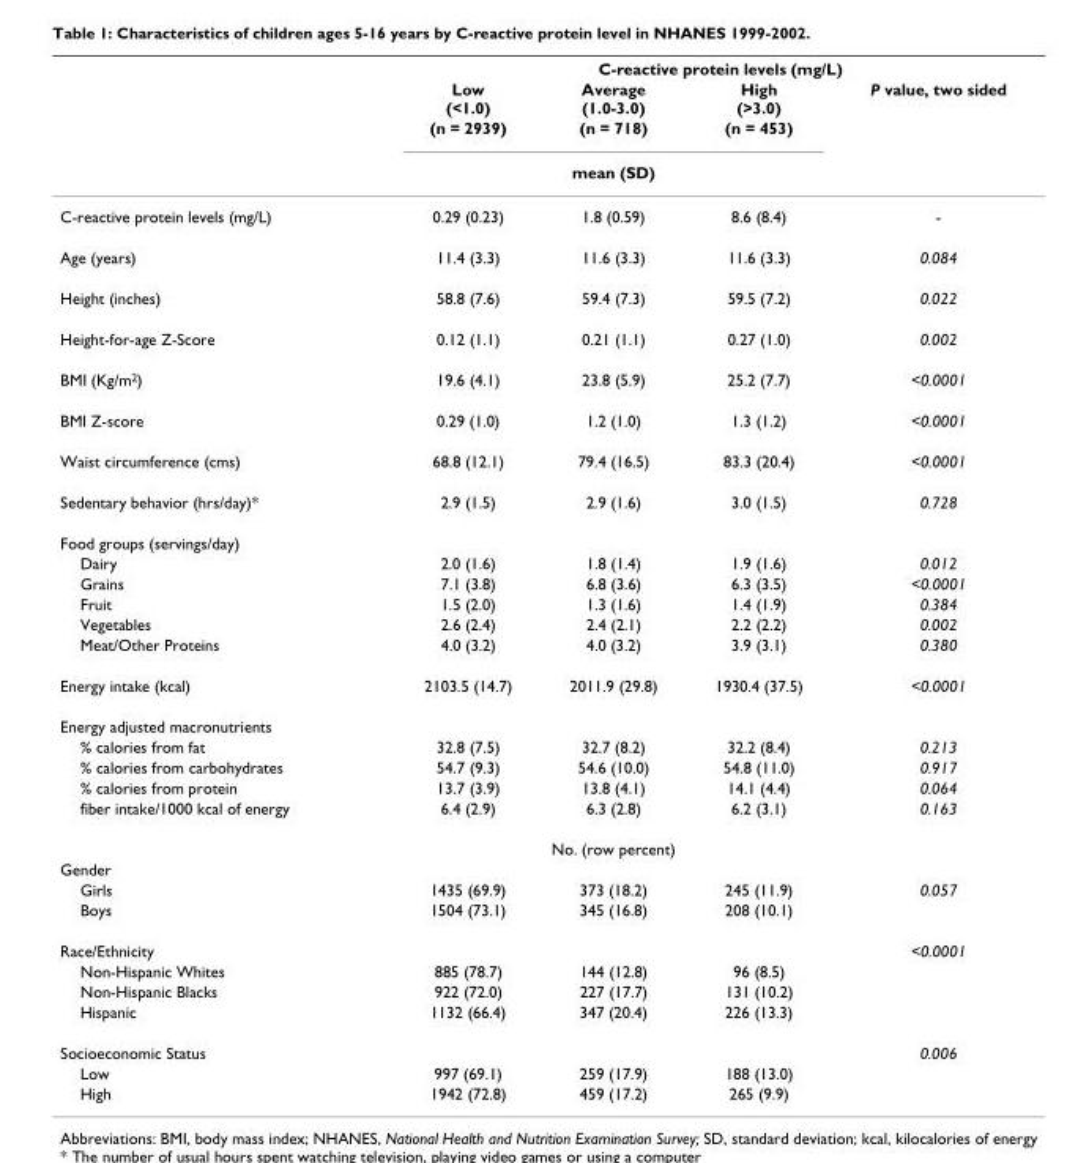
<table><thead><tr><td rowspan="4"></td><td colspan="4">C-reactive protein levels (mg/L)</td></tr><tr><td rowspan="2">Low (&lt;1.0) (n = 2939)</td><td rowspan="2">Average (1.0-3.0) (n = 718)</td><td rowspan="2">High (&gt;3.0) (n = 453)</td><td rowspan="3">P value, two sided</td></tr><tr></tr><tr><td colspan="3">mean (SD)</td></tr></thead><tbody><tr><td>C-reactive protein levels (mg/L)</td><td>0.29 (0.23)</td><td>1.8 (0.59)</td><td>8.6 (8.4)</td><td>-</td></tr><tr><td>Age (years)</td><td>11.4 (3.3)</td><td>11.6 (3.3)</td><td>11.6 (3.3)</td><td>0.084</td></tr><tr><td>Height (inches)</td><td>58.8 (7.6)</td><td>59.4 (7.3)</td><td>59.5 (7.2)</td><td>0.022</td></tr><tr><td>Height-for-age Z-Score</td><td>0.12 (1.1)</td><td>0.21 (1.1)</td><td>0.27 (1.0)</td><td>0.002</td></tr><tr><td>BMI (Kg/m<sup>2</sup>)</td><td>19.6 (4.1)</td><td>23.8 (5.9)</td><td>25.2 (7.7)</td><td>&lt;0.0001</td></tr><tr><td>BMI Z-score</td><td>0.29 (1.0)</td><td>1.2 (1.0)</td><td>1.3 (1.2)</td><td>&lt;0.0001</td></tr><tr><td>Waist circumference (cms)</td><td>68.8 (12.1)</td><td>79.4 (16.5)</td><td>83.3 (20.4)</td><td>&lt;0.0001</td></tr><tr><td>Sedentary behavior (hrs/day)*</td><td>2.9 (1.5)</td><td>2.9 (1.6)</td><td>3.0 (1.5)</td><td>0.728</td></tr><tr><td colspan="5">Food groups (servings/day)</td></tr><tr><td>Dairy</td><td>2.0 (1.6)</td><td>1.8 (1.4)</td><td>1.9 (1.6)</td><td>0.012</td></tr><tr><td>Grains</td><td>7.1 (3.8)</td><td>6.8 (3.6)</td><td>6.3 (3.5)</td><td>&lt;0.0001</td></tr><tr><td>Fruit</td><td>1.5 (2.0)</td><td>1.3 (1.6)</td><td>1.4 (1.9)</td><td>0.384</td></tr><tr><td>Vegetables</td><td>2.6 (2.4)</td><td>2.4 (2.1)</td><td>2.2 (2.2)</td><td>0.002</td></tr><tr><td>Meat/Other Proteins</td><td>4.0 (3.2)</td><td>4.0 (3.2)</td><td>3.9 (3.1)</td><td>0.380</td></tr><tr><td>Energy intake (kcal)</td><td>2103.5 (14.7)</td><td>2011.9 (29.8)</td><td>1930.4 (37.5)</td><td>&lt;0.0001</td></tr><tr><td colspan="5">Energy adjusted macronutrients</td></tr><tr><td>% calories from fat</td><td>32.8 (7.5)</td><td>32.7 (8.2)</td><td>32.2 (8.4)</td><td>0.213</td></tr><tr><td>% calories from carbohydrates</td><td>54.7 (9.3)</td><td>54.6 (10.0)</td><td>54.8 (11.0)</td><td>0.917</td></tr><tr><td>% calories from protein</td><td>13.7 (3.9)</td><td>13.8 (4.1)</td><td>14.1 (4.4)</td><td>0.064</td></tr><tr><td rowspan="2">fiber intake/1000 kcal of energy</td><td>6.4 (2.9)</td><td>6.3 (2.8)</td><td>6.2 (3.1)</td><td>0.163</td></tr><tr><td colspan="3">No. (row percent)</td><td></td></tr><tr><td colspan="5">Gender</td></tr><tr><td>Girls</td><td>1435 (69.9)</td><td>373 (18.2)</td><td>245 (11.9)</td><td>0.057</td></tr><tr><td>Boys</td><td>1504 (73.1)</td><td>345 (16.8)</td><td>208 (10.1)</td><td></td></tr><tr><td>Race/Ethnicity</td><td></td><td></td><td></td><td>&lt;0.0001</td></tr><tr><td>Non-Hispanic Whites</td><td>885 (78.7)</td><td>144 (12.8)</td><td>96 (8.5)</td><td></td></tr><tr><td>Non-Hispanic Blacks</td><td>922 (72.0)</td><td>227 (17.7)</td><td>131 (10.2)</td><td></td></tr><tr><td>Hispanic</td><td>1132 (66.4)</td><td>347 (20.4)</td><td>226 (13.3)</td><td></td></tr><tr><td>Socioeconomic Status</td><td></td><td></td><td></td><td>0.006</td></tr><tr><td>Low</td><td>997 (69.1)</td><td>259 (17.9)</td><td>188 (13.0)</td><td></td></tr><tr><td>High</td><td>1942 (72.8)</td><td>459 (17.2)</td><td>265 (9.9)</td><td></td></tr></tbody></table>